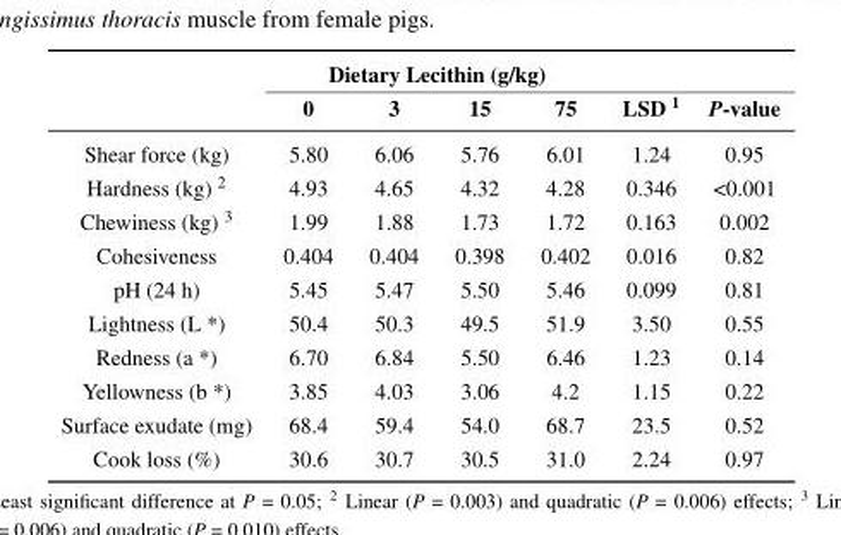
<table><thead><tr><td rowspan="2"></td><td colspan="4">Dietary Lecithin (g/kg)</td><td rowspan="2">LSD <sup>1</sup></td><td rowspan="2">P-value</td></tr><tr><td>0</td><td>3</td><td>15</td><td>75</td></tr></thead><tbody><tr><td>Shear force (kg)</td><td>5.80</td><td>6.06</td><td>5.76</td><td>6.01</td><td>1.24</td><td>0.95</td></tr><tr><td>Hardness (kg) <sup>2</sup></td><td>4.93</td><td>4.65</td><td>4.32</td><td>4.28</td><td>0.346</td><td>&lt;0.001</td></tr><tr><td>Chewiness (kg) <sup>3</sup></td><td>1.99</td><td>1.88</td><td>1.73</td><td>1.72</td><td>0.163</td><td>0.002</td></tr><tr><td>Cohesiveness</td><td>0.404</td><td>0.404</td><td>0.398</td><td>0.402</td><td>0.016</td><td>0.82</td></tr><tr><td>pH (24 h)</td><td>5.45</td><td>5.47</td><td>5.50</td><td>5.46</td><td>0.099</td><td>0.81</td></tr><tr><td>Lightness (L *)</td><td>50.4</td><td>50.3</td><td>49.5</td><td>51.9</td><td>3.50</td><td>0.55</td></tr><tr><td>Redness (a *)</td><td>6.70</td><td>6.84</td><td>5.50</td><td>6.46</td><td>1.23</td><td>0.14</td></tr><tr><td>Yellowness (b *)</td><td>3.85</td><td>4.03</td><td>3.06</td><td>4.2</td><td>1.15</td><td>0.22</td></tr><tr><td>Surface exudate (mg)</td><td>68.4</td><td>59.4</td><td>54.0</td><td>68.7</td><td>23.5</td><td>0.52</td></tr><tr><td>Cook loss (%)</td><td>30.6</td><td>30.7</td><td>30.5</td><td>31.0</td><td>2.24</td><td>0.97</td></tr></tbody></table>